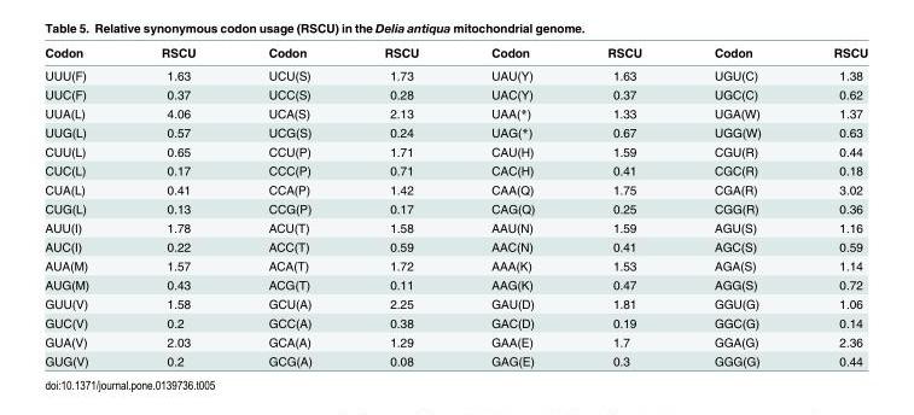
<table><thead><tr><td>Codon</td><td>RSCU</td><td>Codon</td><td>RSCU</td><td>Codon</td><td>RSCU</td><td>Codon</td><td>RSCU</td></tr></thead><tbody><tr><td>UUU(F)</td><td>1.63</td><td>UCU(S)</td><td>1.73</td><td>UAU(Y)</td><td>1.63</td><td>UGU(C)</td><td>1.38</td></tr><tr><td>UUC(F)</td><td>0.37</td><td>UCC(S)</td><td>0.28</td><td>UAC(Y)</td><td>0.37</td><td>UGC(C)</td><td>0.62</td></tr><tr><td>UUA(L)</td><td>4.06</td><td>UCA(S)</td><td>2.13</td><td>UAA(*)</td><td>1.33</td><td>UGA(W)</td><td>1.37</td></tr><tr><td>UUG(L)</td><td>0.57</td><td>UCG(S)</td><td>0.24</td><td>UAG(*)</td><td>0.67</td><td>UGG(W)</td><td>0.63</td></tr><tr><td>CUU(L)</td><td>0.65</td><td>CCU(P)</td><td>1.71</td><td>CAU(H)</td><td>1.59</td><td>CGU(R)</td><td>0.44</td></tr><tr><td>CUC(L)</td><td>0.17</td><td>CCC(P)</td><td>0.71</td><td>CAC(H)</td><td>0.41</td><td>CGC(R)</td><td>0.18</td></tr><tr><td>CUA(L)</td><td>0.41</td><td>CCA(P)</td><td>1.42</td><td>CAA(Q)</td><td>1.75</td><td>CGA(R)</td><td>3.02</td></tr><tr><td>CUG(L)</td><td>0.13</td><td>CCG(P)</td><td>0.17</td><td>CAG(Q)</td><td>0.25</td><td>CGG(R)</td><td>0.36</td></tr><tr><td>AUU(I)</td><td>1.78</td><td>ACU(T)</td><td>1.58</td><td>AAU(N)</td><td>1.59</td><td>AGU(S)</td><td>1.16</td></tr><tr><td>AUC(I)</td><td>0.22</td><td>ACC(T)</td><td>0.59</td><td>AAC(N)</td><td>0.41</td><td>AGC(S)</td><td>0.59</td></tr><tr><td>AUA(M)</td><td>1.57</td><td>ACA(T)</td><td>1.72</td><td>AAA(K)</td><td>1.53</td><td>AGA(S)</td><td>1.14</td></tr><tr><td>AUG(M)</td><td>0.43</td><td>ACG(T)</td><td>0.11</td><td>AAG(K)</td><td>0.47</td><td>AGG(S)</td><td>0.72</td></tr><tr><td>GUU(V)</td><td>1.58</td><td>GCU(A)</td><td>2.25</td><td>GAU(D)</td><td>1.81</td><td>GGU(G)</td><td>1.06</td></tr><tr><td>GUC(V)</td><td>0.2</td><td>GCC(A)</td><td>0.38</td><td>GAC(D)</td><td>0.19</td><td>GGC(G)</td><td>0.14</td></tr><tr><td>GUA(V)</td><td>2.03</td><td>GCA(A)</td><td>1.29</td><td>GAA(E)</td><td>1.7</td><td>GGA(G)</td><td>2.36</td></tr><tr><td>GUG(V)</td><td>0.2</td><td>GCG(A)</td><td>0.08</td><td>GAG(E)</td><td>0.3</td><td>GGG(G)</td><td>0.44</td></tr></tbody></table>